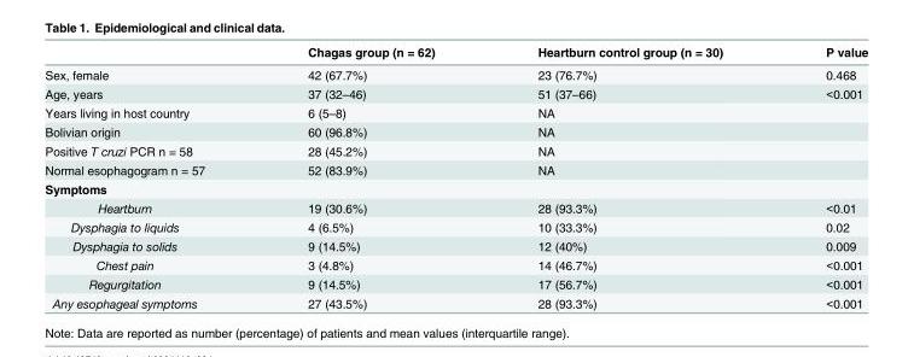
<table><thead><tr><td></td><td>Chagas group (n = 62)</td><td>Heartburn control group (n = 30)</td><td>P value</td></tr></thead><tbody><tr><td>Sex, female</td><td>42 (67.7%)</td><td>23 (76.7%)</td><td>0.468</td></tr><tr><td>Age, years</td><td>37 (32–46)</td><td>51 (37–66)</td><td>&lt;0.001</td></tr><tr><td>Years living in host country</td><td>6 (5–8)</td><td>NA</td><td></td></tr><tr><td>Bolivian origin</td><td>60 (96.8%)</td><td>NA</td><td></td></tr><tr><td>Positive T cruzi PCR n = 58</td><td>28 (45.2%)</td><td>NA</td><td></td></tr><tr><td>Normal esophagogram n = 57</td><td>52 (83.9%)</td><td>NA</td><td></td></tr><tr><td colspan="4">Symptoms</td></tr><tr><td>Heartburn</td><td>19 (30.6%)</td><td>28 (93.3%)</td><td>&lt;0.01</td></tr><tr><td>Dysphagia to liquids</td><td>4 (6.5%)</td><td>10 (33.3%)</td><td>0.02</td></tr><tr><td>Dysphagia to solids</td><td>9 (14.5%)</td><td>12 (40%)</td><td>0.009</td></tr><tr><td>Chest pain</td><td>3 (4.8%)</td><td>14 (46.7%)</td><td>&lt;0.001</td></tr><tr><td>Regurgitation</td><td>9 (14.5%)</td><td>17 (56.7%)</td><td>&lt;0.001</td></tr><tr><td>Any esophageal symptoms</td><td>27 (43.5%)</td><td>28 (93.3%)</td><td>&lt;0.001</td></tr></tbody></table>